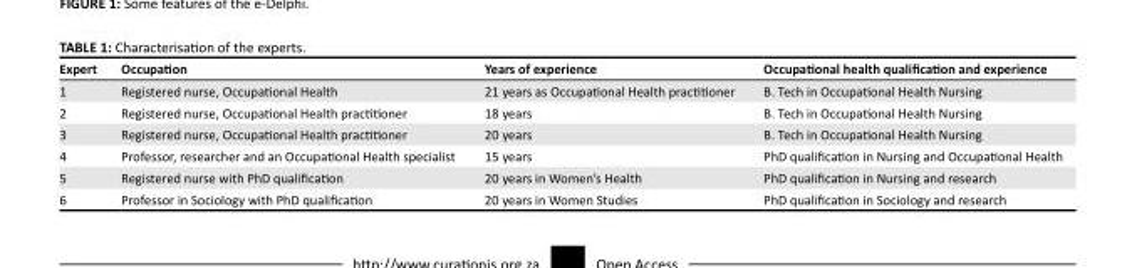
<table><thead><tr><td>Expert</td><td>Occupation</td><td>Years of experience</td><td>Occupational health qualification and experience</td></tr></thead><tbody><tr><td>1</td><td>Registered nurse, Occupational Health</td><td>21 years as Occupational Health practitioner</td><td>B. Tech in Occupational Health Nursing</td></tr><tr><td>2</td><td>Registered nurse, Occupational Health practitioner</td><td>18 years</td><td>B. Tech in Occupational Health Nursing</td></tr><tr><td>3</td><td>Registered nurse, Occupational Health practitioner</td><td>20 years</td><td>B. Tech in Occupational Health Nursing</td></tr><tr><td>4</td><td>Professor, researcher and an Occupational Health specialist</td><td>15 years</td><td>PhD qualification in Nursing and Occupational Health</td></tr><tr><td>5</td><td>Registered nurse with PhD qualification</td><td>20 years in Women’s Health</td><td>PhD qualification in Nursing and research</td></tr><tr><td>6</td><td>Professor in Sociology with PhD qualification</td><td>20 years in Women Studies</td><td>PhD qualification in Sociology and research</td></tr></tbody></table>